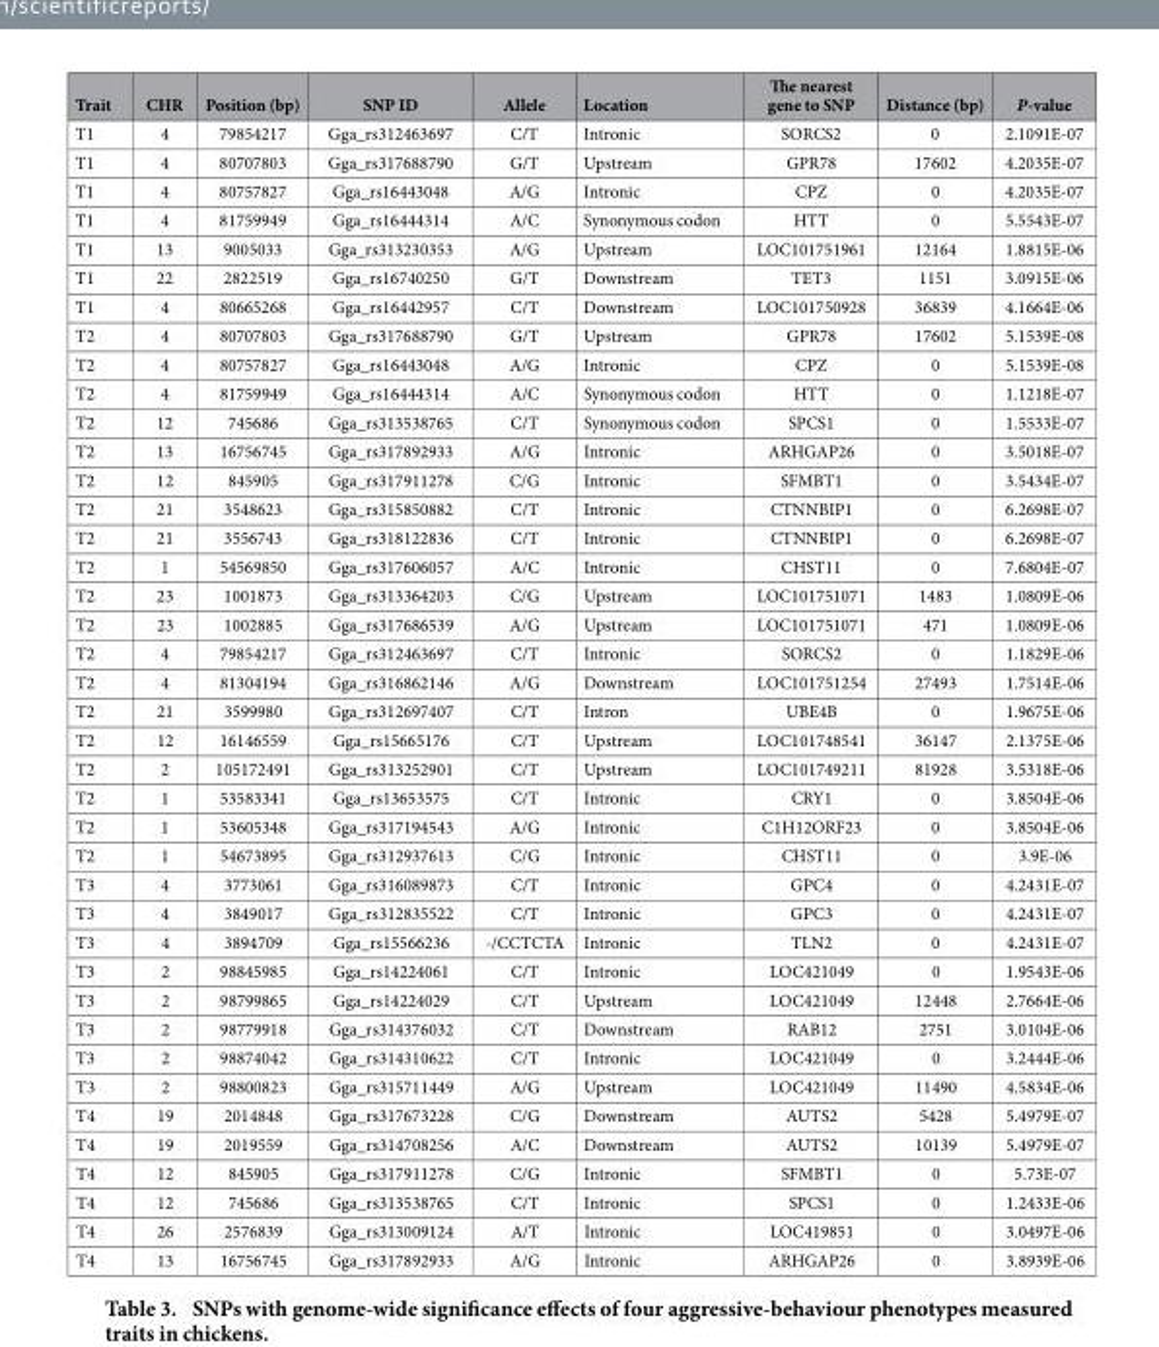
<table><thead><tr><td>Trait</td><td>CHR</td><td>Position (bp)</td><td>SNP ID</td><td>Allele</td><td>Location</td><td>The nearest gene to SNP</td><td>Distance (bp)</td><td>P-value</td></tr></thead><tbody><tr><td>T1</td><td>4</td><td>79854217</td><td>Gga_rs312463697</td><td>C/T</td><td>Intronic</td><td>SORCS2</td><td>0</td><td>2.1091E-07</td></tr><tr><td>T1</td><td>4</td><td>80707803</td><td>Gga_rs317688790</td><td>G/T</td><td>Upstream</td><td>GPR78</td><td>17602</td><td>4.2035E-07</td></tr><tr><td>T1</td><td>4</td><td>80757827</td><td>Gga_rs16443048</td><td>A/G</td><td>Intronic</td><td>CPZ</td><td>0</td><td>4.2035E-07</td></tr><tr><td>T1</td><td>4</td><td>81759949</td><td>Gga_rs16444314</td><td>A/C</td><td>Synonymous codon</td><td>HTT</td><td>0</td><td>5.5543E-07</td></tr><tr><td>T1</td><td>13</td><td>9005033</td><td>Gga_rs313230353</td><td>A/G</td><td>Upstream</td><td>LOC101751961</td><td>12164</td><td>1.8815E-06</td></tr><tr><td>T1</td><td>22</td><td>2822519</td><td>Gga_rs16740250</td><td>G/T</td><td>Downstream</td><td>TET3</td><td>1151</td><td>3.0915E-06</td></tr><tr><td>T1</td><td>4</td><td>80665268</td><td>Gga_rs16442957</td><td>C/T</td><td>Downstream</td><td>LOC101750928</td><td>36839</td><td>4.1664E-06</td></tr><tr><td>T2</td><td>4</td><td>80707803</td><td>Gga_rs317688790</td><td>G/T</td><td>Upstream</td><td>GPR78</td><td>17602</td><td>5.1539E-08</td></tr><tr><td>T2</td><td>4</td><td>80757827</td><td>Gga_rs16443048</td><td>A/G</td><td>Intronic</td><td>CPZ</td><td>0</td><td>5.1539E-08</td></tr><tr><td>T2</td><td>4</td><td>81759949</td><td>Gga_rs16444314</td><td>A/C</td><td>Synonymous codon</td><td>HTT</td><td>0</td><td>1.1218E-07</td></tr><tr><td>T2</td><td>12</td><td>745686</td><td>Gga_rs313538765</td><td>C/T</td><td>Synonymous codon</td><td>SPCS1</td><td>0</td><td>1.5533E-07</td></tr><tr><td>T2</td><td>13</td><td>16756745</td><td>Gga_rs317892933</td><td>A/G</td><td>Intronic</td><td>ARHGAP26</td><td>0</td><td>3.5018E-07</td></tr><tr><td>T2</td><td>12</td><td>845905</td><td>Gga_rs317911278</td><td>C/G</td><td>Intronic</td><td>SFMBT1</td><td>0</td><td>3.5434E-07</td></tr><tr><td>T2</td><td>21</td><td>3548623</td><td>Gga_rs315850882</td><td>C/T</td><td>Intronic</td><td>CTNNBIP1</td><td>0</td><td>6.2698E-07</td></tr><tr><td>T2</td><td>21</td><td>3556743</td><td>Gga_rs318122836</td><td>C/T</td><td>Intronic</td><td>CTNNBIP1</td><td>0</td><td>6.2698E-07</td></tr><tr><td>T2</td><td>1</td><td>54569850</td><td>Gga_rs317606057</td><td>A/C</td><td>Intronic</td><td>CHST11</td><td>0</td><td>7.6804E-07</td></tr><tr><td>T2</td><td>23</td><td>1001873</td><td>Gga_rs313364203</td><td>C/G</td><td>Upstream</td><td>LOC101751071</td><td>1483</td><td>1.0809E-06</td></tr><tr><td>T2</td><td>23</td><td>1002885</td><td>Gga_rs317686539</td><td>A/G</td><td>Upstream</td><td>LOC101751071</td><td>471</td><td>1.0809E-06</td></tr><tr><td>T2</td><td>4</td><td>79854217</td><td>Gga_rs312463697</td><td>C/T</td><td>Intronic</td><td>SORCS2</td><td>0</td><td>1.1829E-06</td></tr><tr><td>T2</td><td>4</td><td>81304194</td><td>Gga_rs316862146</td><td>A/G</td><td>Downstream</td><td>LOC101751254</td><td>27493</td><td>1.7514E-06</td></tr><tr><td>T2</td><td>21</td><td>3599980</td><td>Gga_rs312697407</td><td>C/T</td><td>Intron</td><td>UBE4B</td><td>0</td><td>1.9675E-06</td></tr><tr><td>T2</td><td>12</td><td>16146559</td><td>Gga_rs15665176</td><td>C/T</td><td>Upstream</td><td>LOC101748541</td><td>36147</td><td>2.1375E-06</td></tr><tr><td>T2</td><td>2</td><td>105172491</td><td>Gga_rs313252901</td><td>C/T</td><td>Upstream</td><td>LOC101749211</td><td>81928</td><td>3.5318E-06</td></tr><tr><td>T2</td><td>1</td><td>53583341</td><td>Gga_rs13653575</td><td>C/T</td><td>Intronic</td><td>CRY1</td><td>0</td><td>3.8504E-06</td></tr><tr><td>T2</td><td>1</td><td>53605348</td><td>Gga_rs317194543</td><td>A/G</td><td>Intronic</td><td>C1H12ORF23</td><td>0</td><td>3.8504E-06</td></tr><tr><td>T2</td><td>1</td><td>54673895</td><td>Gga_rs312937613</td><td>C/G</td><td>Intronic</td><td>CHST11</td><td>0</td><td>3.9E-06</td></tr><tr><td>T3</td><td>4</td><td>3773061</td><td>Gga_rs316089873</td><td>C/T</td><td>Intronic</td><td>GPC4</td><td>0</td><td>4.2431E-07</td></tr><tr><td>T3</td><td>4</td><td>3849017</td><td>Gga_rs312835522</td><td>C/T</td><td>Intronic</td><td>GPC3</td><td>0</td><td>4.2431E-07</td></tr><tr><td>T3</td><td>4</td><td>3894709</td><td>Gga_rs15566236</td><td>-/CCTCTA</td><td>Intronic</td><td>TLN2</td><td>0</td><td>4.2431E-07</td></tr><tr><td>T3</td><td>2</td><td>98845985</td><td>Gga_rs14224061</td><td>C/T</td><td>Intronic</td><td>LOC421049</td><td>0</td><td>1.9543E-06</td></tr><tr><td>T3</td><td>2</td><td>98799865</td><td>Gga_rs14224029</td><td>C/T</td><td>Upstream</td><td>LOC421049</td><td>12448</td><td>2.7664E-06</td></tr><tr><td>T3</td><td>2</td><td>98779918</td><td>Gga_rs314376032</td><td>C/T</td><td>Downstream</td><td>RAB12</td><td>2751</td><td>3.0104E-06</td></tr><tr><td>T3</td><td>2</td><td>98874042</td><td>Gga_rs314310622</td><td>C/T</td><td>Intronic</td><td>LOC421049</td><td>0</td><td>3.2444E-06</td></tr><tr><td>T3</td><td>2</td><td>98800823</td><td>Gga_rs315711449</td><td>A/G</td><td>Upstream</td><td>LOC421049</td><td>11490</td><td>4.5834E-06</td></tr><tr><td>T4</td><td>19</td><td>2014848</td><td>Gga_rs317673228</td><td>C/G</td><td>Downstream</td><td>AUTS2</td><td>5428</td><td>5.4979E-07</td></tr><tr><td>T4</td><td>19</td><td>2019559</td><td>Gga_rs314708256</td><td>A/C</td><td>Downstream</td><td>AUTS2</td><td>10139</td><td>5.4979E-07</td></tr><tr><td>T4</td><td>12</td><td>845905</td><td>Gga_rs317911278</td><td>C/G</td><td>Intronic</td><td>SFMBT1</td><td>0</td><td>5.73E-07</td></tr><tr><td>T4</td><td>12</td><td>745686</td><td>Gga_rs313538765</td><td>C/T</td><td>Intronic</td><td>SPCS1</td><td>0</td><td>1.2433E-06</td></tr><tr><td>T4</td><td>26</td><td>2576839</td><td>Gga_rs313009124</td><td>A/T</td><td>Intronic</td><td>LOC419851</td><td>0</td><td>3.0497E-06</td></tr><tr><td>T4</td><td>13</td><td>16756745</td><td>Gga_rs317892933</td><td>A/G</td><td>Intronic</td><td>ARHGAP26</td><td>0</td><td>3.8939E-06</td></tr></tbody></table>